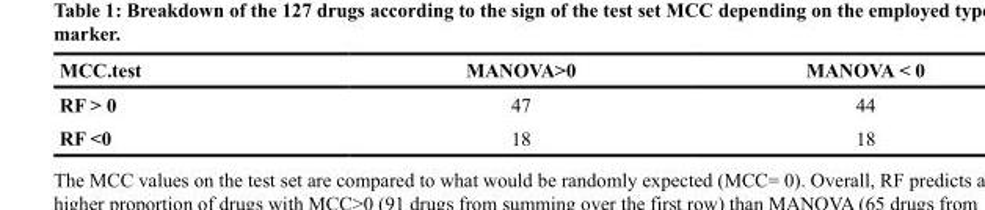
<table><thead><tr><td>MCC.test</td><td>MANOVA&gt;0</td><td>MANOVA &lt; 0</td></tr></thead><tbody><tr><td>RF &gt; 0</td><td>47</td><td>44</td></tr><tr><td>RF &lt;0</td><td>18</td><td>18</td></tr></tbody></table>